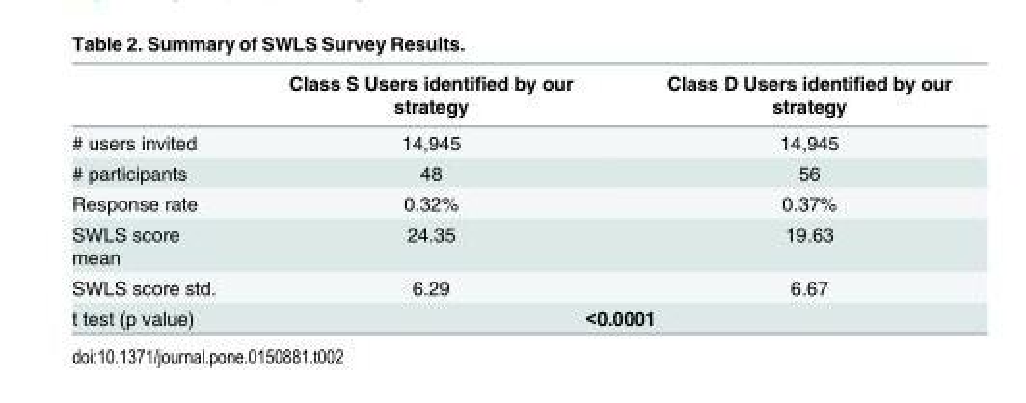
<table><thead><tr><td></td><td>Class S Users identified by our strategy</td><td>Class D Users identified by our strategy</td></tr></thead><tbody><tr><td># users invited</td><td>14,945</td><td>14,945</td></tr><tr><td># participants</td><td>48</td><td>56</td></tr><tr><td>Response rate</td><td>0.32%</td><td>0.37%</td></tr><tr><td>SWLS score mean</td><td>24.35</td><td>19.63</td></tr><tr><td>SWLS score std.</td><td>6.29</td><td>6.67</td></tr><tr><td>t test (p value)</td><td colspan="2">&lt;0.0001</td></tr></tbody></table>